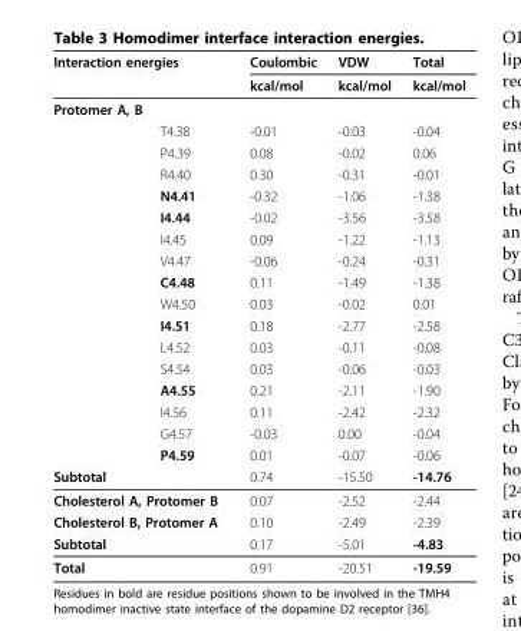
<table><thead><tr><td colspan="2">Interaction energies</td><td rowspan="2">Coulombic kcal/mol</td><td rowspan="2">VDW kcal/mol</td><td rowspan="2">Total kcal/mol</td></tr><tr><td></td><td></td></tr></thead><tbody><tr><td colspan="5">Protomer A, B</td></tr><tr><td></td><td>T4.38</td><td>-0.01</td><td>-0.03</td><td>-0.04</td></tr><tr><td></td><td>P4.39</td><td>0.08</td><td>-0.02</td><td>0.06</td></tr><tr><td></td><td>R4.40</td><td>0.30</td><td>-0.31</td><td>-0.01</td></tr><tr><td></td><td>N4.41</td><td>-0.32</td><td>-1.06</td><td>-1.38</td></tr><tr><td></td><td>I4.44</td><td>-0.02</td><td>-3.56</td><td>-3.58</td></tr><tr><td></td><td>I4.45</td><td>0.09</td><td>-1.22</td><td>-1.13</td></tr><tr><td></td><td>V4.47</td><td>-0.06</td><td>-0.24</td><td>-0.31</td></tr><tr><td></td><td>C4.48</td><td>0.11</td><td>-1.49</td><td>-1.38</td></tr><tr><td></td><td>W4.50</td><td>0.03</td><td>-0.02</td><td>0.01</td></tr><tr><td></td><td>I4.51</td><td>0.18</td><td>-2.77</td><td>-2.58</td></tr><tr><td></td><td>L4.52</td><td>0.03</td><td>-0.11</td><td>-0.08</td></tr><tr><td></td><td>S4.54</td><td>0.03</td><td>-0.06</td><td>-0.03</td></tr><tr><td></td><td>A4.55</td><td>0.21</td><td>-2.11</td><td>-1.90</td></tr><tr><td></td><td>I4.56</td><td>0.11</td><td>-2.42</td><td>-2.32</td></tr><tr><td></td><td>G4.57</td><td>-0.03</td><td>0.00</td><td>-0.04</td></tr><tr><td></td><td>P4.59</td><td>0.01</td><td>-0.07</td><td>-0.06</td></tr><tr><td>Subtotal</td><td></td><td>0.74</td><td>-15.50</td><td>-14.76</td></tr><tr><td colspan="2">Cholesterol A, Protomer B</td><td>0.07</td><td>-2.52</td><td>-2.44</td></tr><tr><td colspan="2">Cholesterol B, Protomer A</td><td>0.10</td><td>-2.49</td><td>-2.39</td></tr><tr><td>Subtotal</td><td></td><td>0.17</td><td>-5.01</td><td>-4.83</td></tr><tr><td>Total</td><td></td><td>0.91</td><td>-20.51</td><td>-19.59</td></tr></tbody></table>